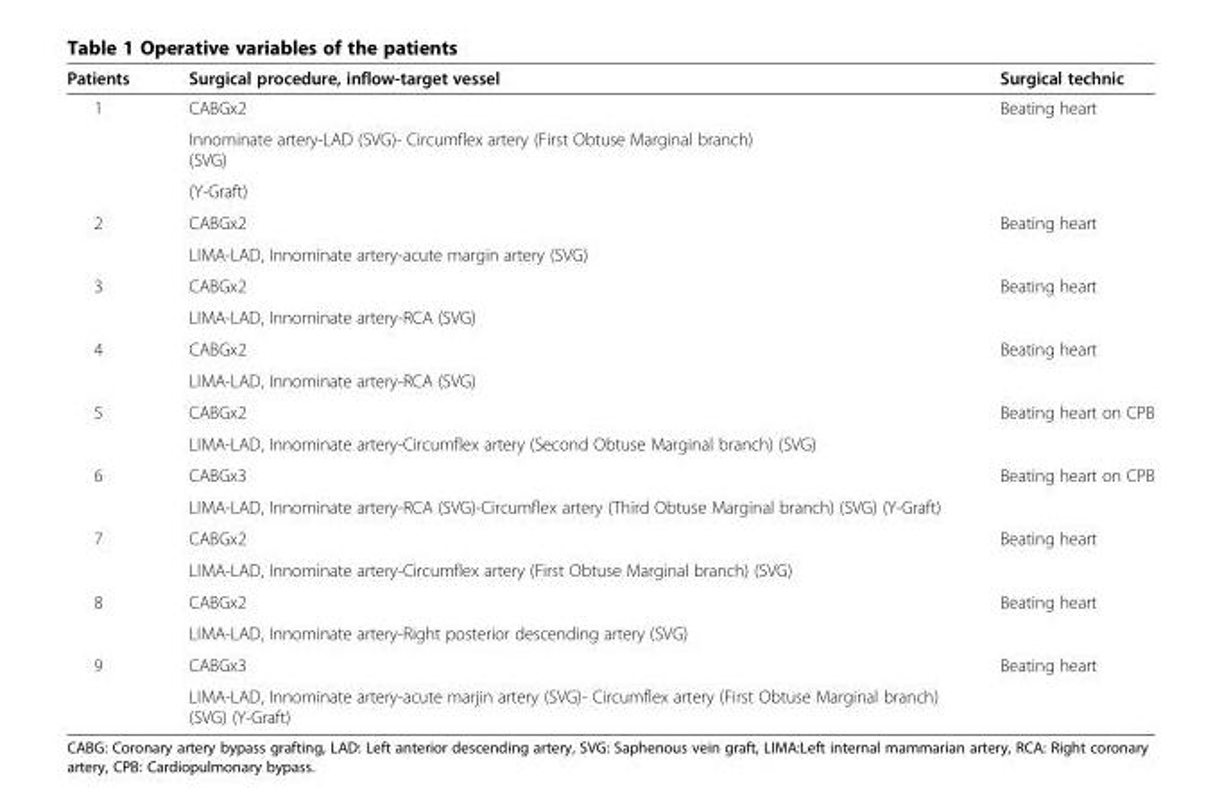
<table><thead><tr><td>Patients</td><td>Surgical procedure, inflow-target vessel</td><td>Surgical technic</td></tr></thead><tbody><tr><td rowspan="3">1</td><td>CABGx2</td><td rowspan="3">Beating heart</td></tr><tr><td>Innominate artery-LAD (SVG)- Circumflex artery (First Obtuse Marginal branch) (SVG)</td></tr><tr><td>(Y-Graft)</td></tr><tr><td rowspan="2">2</td><td>CABGx2</td><td rowspan="2">Beating heart</td></tr><tr><td>LIMA-LAD, Innominate artery-acute margin artery (SVG)</td></tr><tr><td rowspan="2">3</td><td>CABGx2</td><td rowspan="2">Beating heart</td></tr><tr><td>LIMA-LAD, Innominate artery-RCA (SVG)</td></tr><tr><td rowspan="2">4</td><td>CABGx2</td><td rowspan="2">Beating heart</td></tr><tr><td>LIMA-LAD, Innominate artery-RCA (SVG)</td></tr><tr><td rowspan="2">5</td><td>CABGx2</td><td rowspan="2">Beating heart on CPB</td></tr><tr><td>LIMA-LAD, Innominate artery-Circumflex artery (Second Obtuse Marginal branch) (SVG)</td></tr><tr><td rowspan="2">6</td><td>CABGx3</td><td rowspan="2">Beating heart on CPB</td></tr><tr><td>LIMA-LAD, Innominate artery-RCA (SVG)-Circumflex artery (Third Obtuse Marginal branch) (SVG) (Y-Graft)</td></tr><tr><td rowspan="2">7</td><td>CABGx2</td><td rowspan="2">Beating heart</td></tr><tr><td>LIMA-LAD, Innominate artery-Circumflex artery (First Obtuse Marginal branch) (SVG)</td></tr><tr><td rowspan="2">8</td><td>CABGx2</td><td rowspan="2">Beating heart</td></tr><tr><td>LIMA-LAD, Innominate artery-Right posterior descending artery (SVG)</td></tr><tr><td rowspan="2">9</td><td>CABGx3</td><td>Beating heart</td></tr><tr><td>LIMA-LAD, Innominate artery-acute marjin artery (SVG)- Circumflex artery (First Obtuse Marginal branch) (SVG) (Y-Graft)</td><td></td></tr></tbody></table>